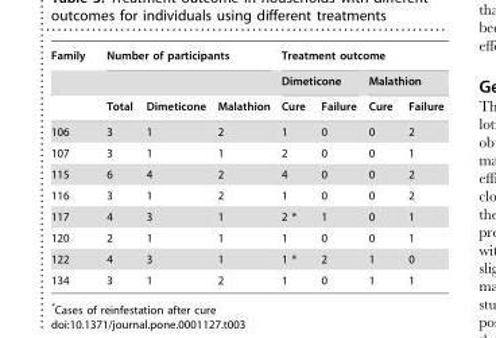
<table><thead><tr><td rowspan="3">Family</td><td colspan="3">Number of participants</td><td colspan="4">Treatment outcome</td></tr><tr><td rowspan="2">Total</td><td rowspan="2">Dimeticone</td><td rowspan="2">Malathion</td><td colspan="2">Dimeticone</td><td colspan="2">Malathion</td></tr><tr><td>Cure</td><td>Failure</td><td>Cure</td><td>Failure</td></tr></thead><tbody><tr><td>106</td><td>3</td><td>1</td><td>2</td><td>1</td><td>0</td><td>0</td><td>2</td></tr><tr><td>107</td><td>3</td><td>1</td><td>1</td><td>2</td><td>0</td><td>0</td><td>1</td></tr><tr><td>115</td><td>6</td><td>4</td><td>2</td><td>4</td><td>0</td><td>0</td><td>2</td></tr><tr><td>116</td><td>3</td><td>1</td><td>2</td><td>1</td><td>0</td><td>0</td><td>2</td></tr><tr><td>117</td><td>4</td><td>3</td><td>1</td><td>2 *</td><td>1</td><td>0</td><td>1</td></tr><tr><td>120</td><td>2</td><td>1</td><td>1</td><td>1</td><td>0</td><td>0</td><td>1</td></tr><tr><td>122</td><td>4</td><td>3</td><td>1</td><td>1 *</td><td>2</td><td>1</td><td>0</td></tr><tr><td>134</td><td>3</td><td>1</td><td>2</td><td>1</td><td>0</td><td>1</td><td>1</td></tr></tbody></table>